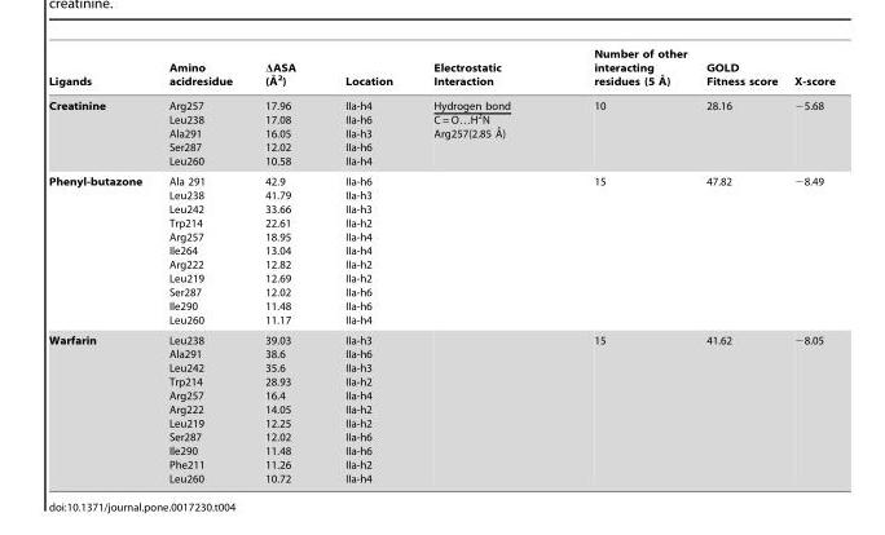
<table><thead><tr><td>Ligands</td><td>Amino acidresidue</td><td>DASA (A˚ 2)</td><td>Location</td><td>Electrostatic Interaction</td><td>Number of other interacting residues (5 A˚)</td><td>GOLD Fitness score</td><td>X-score</td></tr></thead><tbody><tr><td>Creatinine</td><td>Arg257 Leu238 Ala291 Ser287 Leu260</td><td>17.96 17.08 16.05 12.02 10.58</td><td>IIa-h4 IIa-h6 IIa-h3 IIa-h6 IIa-h4</td><td>Hydrogen bond C = O…H2N Arg257(2.85 A˚)</td><td>10</td><td>28.16</td><td>−5.68</td></tr><tr><td>Phenyl-butazone</td><td>Ala 291 Leu238 Leu242 Trp214 Arg257 Ile264 Arg222 Leu219 Ser287 Ile290 Leu260</td><td>42.9 41.79 33.66 22.61 18.95 13.04 12.82 12.69 12.02 11.48 11.17</td><td>IIa-h6 IIa-h3 IIa-h3 IIa-h2 IIa-h4 IIa-h4 IIa-h2 IIa-h2 IIa-h6 IIa-h6 IIa-h4</td><td></td><td>15</td><td>47.82</td><td>−8.49</td></tr><tr><td>Warfarin</td><td>Leu238 Ala291 Leu242 Trp214 Arg257 Arg222 Leu219 Ser287 Ile290 Phe211 Leu260</td><td>39.03 38.6 35.6 28.93 16.4 14.05 12.25 12.02 11.48 11.26 10.72</td><td>IIa-h3 IIa-h6 IIa-h3 IIa-h2 IIa-h4 IIa-h2 IIa-h2 IIa-h6 IIa-h6 IIa-h2 IIa-h4</td><td></td><td>15</td><td>41.62</td><td>−8.05</td></tr></tbody></table>